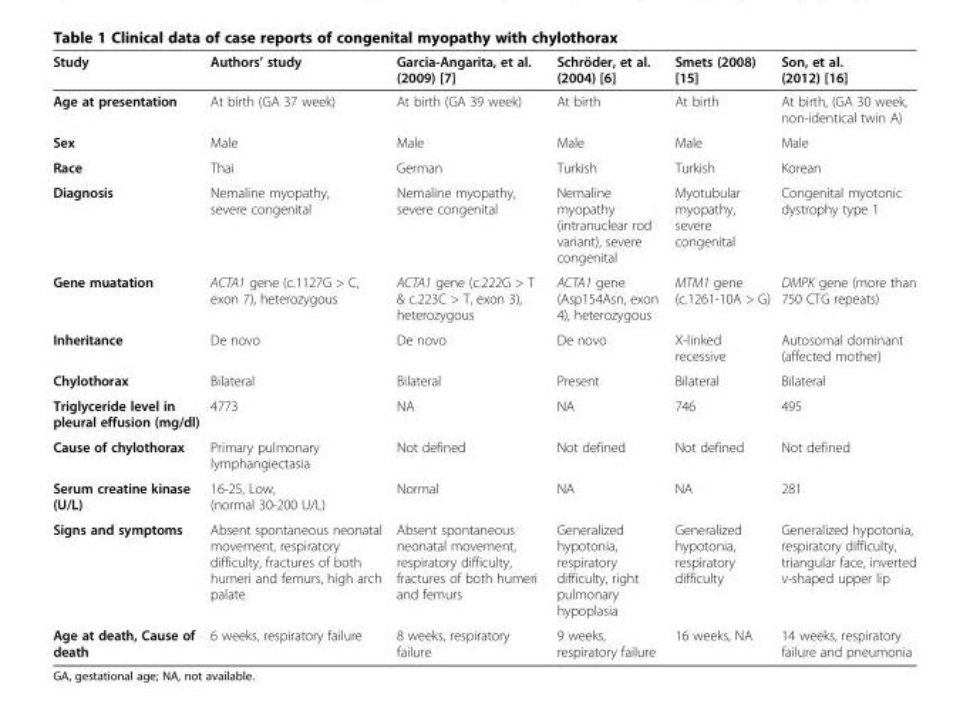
<table><thead><tr><td>Study</td><td>Authors’ study</td><td>Garcia-Angarita, et al. (2009) [7]</td><td>Schröder, et al. (2004) [6]</td><td>Smets (2008) [15]</td><td>Son, et al. (2012) [16]</td></tr></thead><tbody><tr><td>Age at presentation</td><td>At birth (GA 37 week)</td><td>At birth (GA 39 week)</td><td>At birth</td><td>At birth</td><td>At birth, (GA 30 week, non-identical twin A)</td></tr><tr><td>Sex</td><td>Male</td><td>Male</td><td>Male</td><td>Male</td><td>Male</td></tr><tr><td>Race</td><td>Thai</td><td>German</td><td>Turkish</td><td>Turkish</td><td>Korean</td></tr><tr><td>Diagnosis</td><td>Nemaline myopathy, severe congenital</td><td>Nemaline myopathy, severe congenital</td><td>Nemaline myopathy (intranuclear rod variant), severe congenital</td><td>Myotubular myopathy, severe congenital</td><td>Congenital myotonic dystrophy type 1</td></tr><tr><td>Gene muatation</td><td>ACTA1 gene (c.1127G &gt; C, exon 7), heterozygous</td><td>ACTA1 gene (c.222G &gt; T &amp; c.223C &gt; T, exon 3), heterozygous</td><td>ACTA1 gene (Asp154Asn, exon 4), heterozygous</td><td>MTM1 gene (c.1261-10A &gt; G)</td><td>DMPK gene (more than 750 CTG repeats)</td></tr><tr><td>Inheritance</td><td>De novo</td><td>De novo</td><td>De novo</td><td>X-linked recessive</td><td>Autosomal dominant (affected mother)</td></tr><tr><td>Chylothorax</td><td>Bilateral</td><td>Bilateral</td><td>Present</td><td>Bilateral</td><td>Bilateral</td></tr><tr><td>Triglyceride level in pleural effusion (mg/dl)</td><td>4773</td><td>NA</td><td>NA</td><td>746</td><td>495</td></tr><tr><td>Cause of chylothorax</td><td>Primary pulmonary lymphangiectasia</td><td>Not defined</td><td>Not defined</td><td>Not defined</td><td>Not defined</td></tr><tr><td>Serum creatine kinase (U/L)</td><td>16-25, Low, (normal 30-200 U/L)</td><td>Normal</td><td>NA</td><td>NA</td><td>281</td></tr><tr><td>Signs and symptoms</td><td>Absent spontaneous neonatal movement, respiratory difficulty, fractures of both humeri and femurs, high arch palate</td><td>Absent spontaneous neonatal movement, respiratory difficulty, fractures of both humeri and femurs</td><td>Generalized hypotonia, respiratory difficulty, right pulmonary hypoplasia</td><td>Generalized hypotonia, respiratory difficulty</td><td>Generalized hypotonia, respiratory difficulty, triangular face, inverted v-shaped upper lip</td></tr><tr><td>Age at death, Cause of death</td><td>6 weeks, respiratory failure</td><td>8 weeks, respiratory failure</td><td>9 weeks, respiratory failure</td><td>16 weeks, NA</td><td>14 weeks, respiratory failure and pneumonia</td></tr></tbody></table>